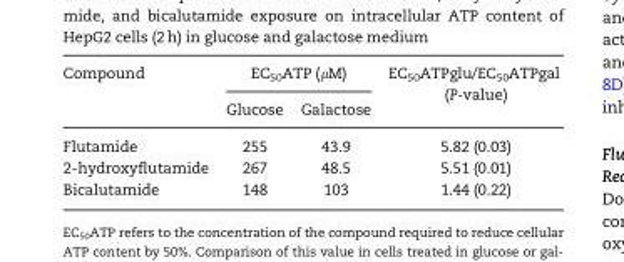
<table><thead><tr><td rowspan="2">Compound</td><td colspan="2">EC<sub>50</sub>ATP (μM)</td><td rowspan="2">EC<sub>50</sub>ATPglu/EC<sub>50</sub>ATPgal (P-value)</td></tr><tr><td>Glucose</td><td>Galactose</td></tr></thead><tbody><tr><td>Flutamide</td><td>255</td><td>43.9</td><td>5.82 (0.03)</td></tr><tr><td>2-hydroxyflutamide</td><td>267</td><td>48.5</td><td>5.51 (0.01)</td></tr><tr><td>Bicalutamide</td><td>148</td><td>103</td><td>1.44 (0.22)</td></tr></tbody></table>